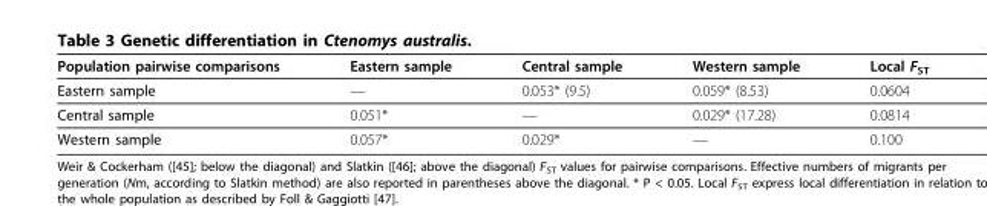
<table><thead><tr><td>Population pairwise comparisons</td><td>Eastern sample</td><td>Central sample</td><td>Western sample</td><td>Local F<sub>ST</sub></td></tr></thead><tbody><tr><td>Eastern sample</td><td>—</td><td>0.053* (9.5)</td><td>0.059* (8.53)</td><td>0.0604</td></tr><tr><td>Central sample</td><td>0.051*</td><td>—</td><td>0.029* (17.28)</td><td>0.0814</td></tr><tr><td>Western sample</td><td>0.057*</td><td>0.029*</td><td>—</td><td>0.100</td></tr></tbody></table>